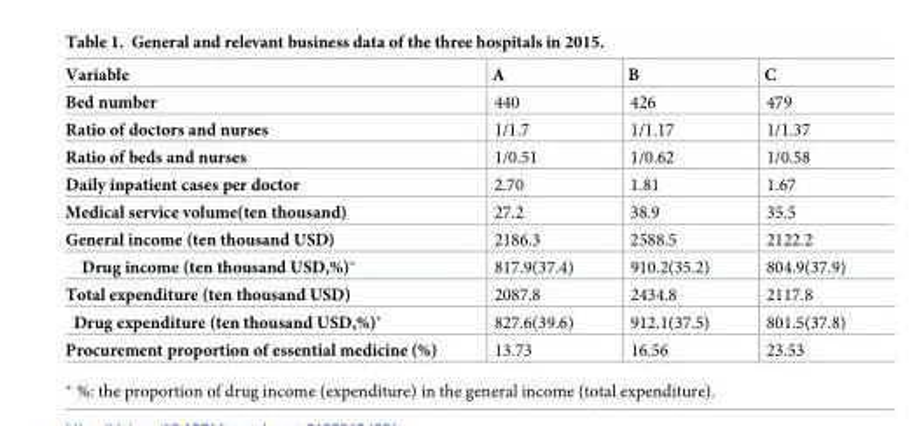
<table><thead><tr><td>Variable</td><td>A</td><td>B</td><td>C</td></tr></thead><tbody><tr><td>Bed number</td><td>440</td><td>426</td><td>479</td></tr><tr><td>Ratio of doctors and nurses</td><td>1/1.7</td><td>1/1.17</td><td>1/1.37</td></tr><tr><td>Ratio of beds and nurses</td><td>1/0.51</td><td>1/0.62</td><td>1/0.58</td></tr><tr><td>Daily inpatient cases per doctor</td><td>2.70</td><td>1.81</td><td>1.67</td></tr><tr><td>Medical service volume(ten thousand)</td><td>27.2</td><td>38.9</td><td>35.5</td></tr><tr><td>General income (ten thousand USD)</td><td>2186.3</td><td>2588.5</td><td>2122.2</td></tr><tr><td>Drug income (ten thousand USD,%)*</td><td>817.9(37.4)</td><td>910.2(35.2)</td><td>804.9(37.9)</td></tr><tr><td>Total expenditure (ten thousand USD)</td><td>2087.8</td><td>2434.8</td><td>2117.8</td></tr><tr><td>Drug expenditure (ten thousand USD,%)*</td><td>827.6(39.6)</td><td>912.1(37.5)</td><td>801.5(37.8)</td></tr><tr><td>Procurement proportion of essential medicine (%)</td><td>13.73</td><td>16.56</td><td>23.53</td></tr></tbody></table>